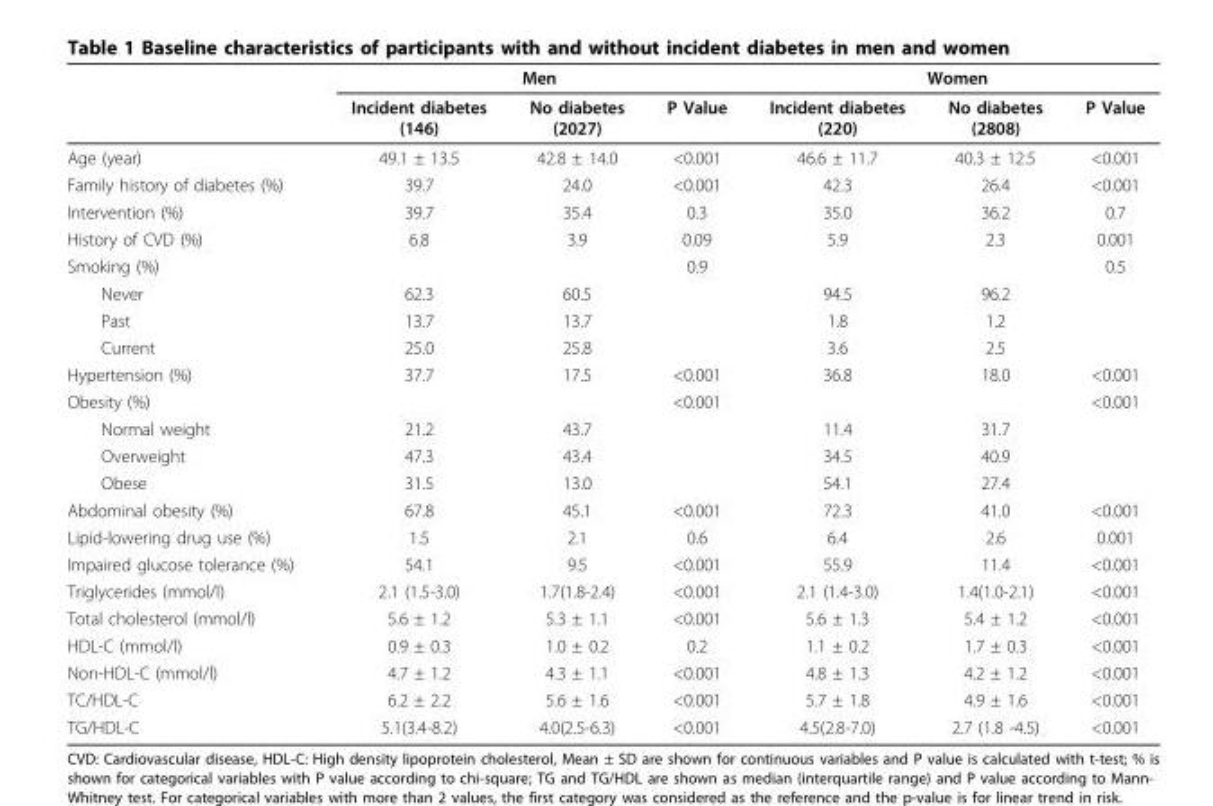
<table><thead><tr><td rowspan="2"></td><td colspan="3">Men</td><td colspan="3">Women</td></tr><tr><td>Incident diabetes (146)</td><td>No diabetes (2027)</td><td>P Value</td><td>Incident diabetes (220)</td><td>No diabetes (2808)</td><td>P Value</td></tr></thead><tbody><tr><td>Age (year)</td><td>49.1 ± 13.5</td><td>42.8 ± 14.0</td><td>&lt;0.001</td><td>46.6 ± 11.7</td><td>40.3 ± 12.5</td><td>&lt;0.001</td></tr><tr><td>Family history of diabetes (%)</td><td>39.7</td><td>24.0</td><td>&lt;0.001</td><td>42.3</td><td>26.4</td><td>&lt;0.001</td></tr><tr><td>Intervention (%)</td><td>39.7</td><td>35.4</td><td>0.3</td><td>35.0</td><td>36.2</td><td>0.7</td></tr><tr><td>History of CVD (%)</td><td>6.8</td><td>3.9</td><td>0.09</td><td>5.9</td><td>2.3</td><td>0.001</td></tr><tr><td>Smoking (%)</td><td></td><td></td><td>0.9</td><td></td><td></td><td>0.5</td></tr><tr><td>Never</td><td>62.3</td><td>60.5</td><td></td><td>94.5</td><td>96.2</td><td></td></tr><tr><td>Past</td><td>13.7</td><td>13.7</td><td></td><td>1.8</td><td>1.2</td><td></td></tr><tr><td>Current</td><td>25.0</td><td>25.8</td><td></td><td>3.6</td><td>2.5</td><td></td></tr><tr><td>Hypertension (%)</td><td>37.7</td><td>17.5</td><td>&lt;0.001</td><td>36.8</td><td>18.0</td><td>&lt;0.001</td></tr><tr><td>Obesity (%)</td><td></td><td></td><td>&lt;0.001</td><td></td><td></td><td>&lt;0.001</td></tr><tr><td>Normal weight</td><td>21.2</td><td>43.7</td><td></td><td>11.4</td><td>31.7</td><td></td></tr><tr><td>Overweight</td><td>47.3</td><td>43.4</td><td></td><td>34.5</td><td>40.9</td><td></td></tr><tr><td>Obese</td><td>31.5</td><td>13.0</td><td></td><td>54.1</td><td>27.4</td><td></td></tr><tr><td>Abdominal obesity (%)</td><td>67.8</td><td>45.1</td><td>&lt;0.001</td><td>72.3</td><td>41.0</td><td>&lt;0.001</td></tr><tr><td>Lipid-lowering drug use (%)</td><td>1.5</td><td>2.1</td><td>0.6</td><td>6.4</td><td>2.6</td><td>0.001</td></tr><tr><td>Impaired glucose tolerance (%)</td><td>54.1</td><td>9.5</td><td>&lt;0.001</td><td>55.9</td><td>11.4</td><td>&lt;0.001</td></tr><tr><td>Triglycerides (mmol/l)</td><td>2.1 (1.5-3.0)</td><td>1.7(1.8-2.4)</td><td>&lt;0.001</td><td>2.1 (1.4-3.0)</td><td>1.4(1.0-2.1)</td><td>&lt;0.001</td></tr><tr><td>Total cholesterol (mmol/l)</td><td>5.6 ± 1.2</td><td>5.3 ± 1.1</td><td>&lt;0.001</td><td>5.6 ± 1.3</td><td>5.4 ± 1.2</td><td>&lt;0.001</td></tr><tr><td>HDL-C (mmol/l)</td><td>0.9 ± 0.3</td><td>1.0 ± 0.2</td><td>0.2</td><td>1.1 ± 0.2</td><td>1.7 ± 0.3</td><td>&lt;0.001</td></tr><tr><td>Non-HDL-C (mmol/l)</td><td>4.7 ± 1.2</td><td>4.3 ± 1.1</td><td>&lt;0.001</td><td>4.8 ± 1.3</td><td>4.2 ± 1.2</td><td>&lt;0.001</td></tr><tr><td>TC/HDL-C</td><td>6.2 ± 2.2</td><td>5.6 ± 1.6</td><td>&lt;0.001</td><td>5.7 ± 1.8</td><td>4.9 ± 1.6</td><td>&lt;0.001</td></tr><tr><td>TG/HDL-C</td><td>5.1(3.4-8.2)</td><td>4.0(2.5-6.3)</td><td>&lt;0.001</td><td>4.5(2.8-7.0)</td><td>2.7 (1.8 -4.5)</td><td>&lt;0.001</td></tr></tbody></table>